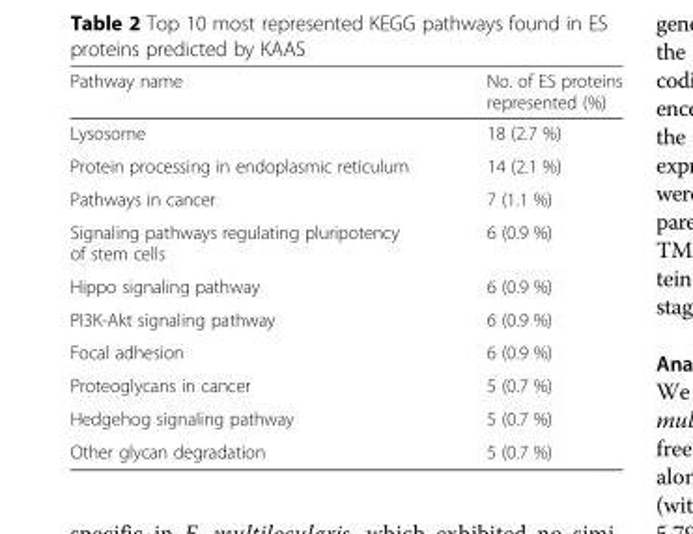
<table><thead><tr><td>Pathway name</td><td>No. of ES proteins represented (%)</td></tr></thead><tbody><tr><td>Lysosome</td><td>18 (2.7 %)</td></tr><tr><td>Protein processing in endoplasmic reticulum</td><td>14 (2.1 %)</td></tr><tr><td>Pathways in cancer</td><td>7 (1.1 %)</td></tr><tr><td>Signaling pathways regulating pluripotency of stem cells</td><td>6 (0.9 %)</td></tr><tr><td>Hippo signaling pathway</td><td>6 (0.9 %)</td></tr><tr><td>PI3K-Akt signaling pathway</td><td>6 (0.9 %)</td></tr><tr><td>Focal adhesion</td><td>6 (0.9 %)</td></tr><tr><td>Proteoglycans in cancer</td><td>5 (0.7 %)</td></tr><tr><td>Hedgehog signaling pathway</td><td>5 (0.7 %)</td></tr><tr><td>Other glycan degradation</td><td>5 (0.7 %)</td></tr></tbody></table>